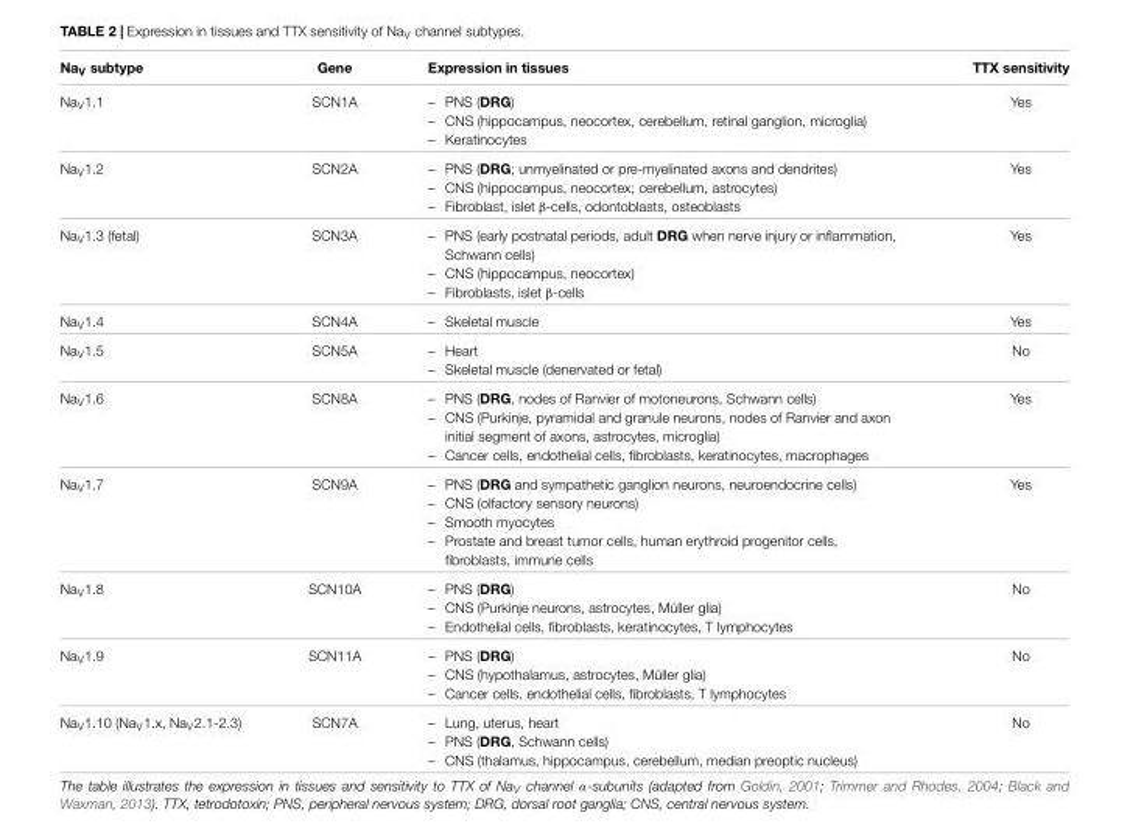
<table><thead><tr><td>Na<sub>V</sub> subtype</td><td>Gene</td><td>Expression in tissues</td><td>TTX sensitivity</td></tr></thead><tbody><tr><td>Na<sub>V</sub>1.1</td><td>SCN1A</td><td>– PNS (DRG) – CNS (hippocampus, neocortex, cerebellum, retinal ganglion, microglia) – Keratinocytes</td><td>Yes</td></tr><tr><td>Na<sub>V</sub>1.2</td><td>SCN2A</td><td>– PNS (DRG; unmyelinated or pre-myelinated axons and dendrites) – CNS (hippocampus, neocortex; cerebellum, astrocytes) – Fibroblast, islet β-cells, odontoblasts, osteoblasts</td><td>Yes</td></tr><tr><td>Na<sub>V</sub>1.3 (fetal)</td><td>SCN3A</td><td>– PNS (early postnatal periods, adult DRG when nerve injury or inflammation, Schwann cells) – CNS (hippocampus, neocortex) – Fibroblasts, islet β-cells</td><td>Yes</td></tr><tr><td>Na<sub>V</sub>1.4</td><td>SCN4A</td><td>– Skeletal muscle</td><td>Yes</td></tr><tr><td>Na<sub>V</sub>1.5</td><td>SCN5A</td><td>– Heart – Skeletal muscle (denervated or fetal)</td><td>No</td></tr><tr><td>Na<sub>V</sub>1.6</td><td>SCN8A</td><td>– PNS (DRG, nodes of Ranvier of motoneurons, Schwann cells) – CNS (Purkinje, pyramidal and granule neurons, nodes of Ranvier and axon initial segment of axons, astrocytes, microglia) – Cancer cells, endothelial cells, fibroblasts, keratinocytes, macrophages</td><td>Yes</td></tr><tr><td>Na<sub>V</sub>1.7</td><td>SCN9A</td><td>– PNS (DRG and sympathetic ganglion neurons, neuroendocrine cells) – CNS (olfactory sensory neurons) – Smooth myocytes – Prostate and breast tumor cells, human erythroid progenitor cells, fibroblasts, immune cells</td><td>Yes</td></tr><tr><td>Na<sub>V</sub>1.8</td><td>SCN10A</td><td>– PNS (DRG) – CNS (Purkinje neurons, astrocytes, Müller glia) – Endothelial cells, fibroblasts, keratinocytes, T lymphocytes</td><td>No</td></tr><tr><td>Na<sub>V</sub>1.9</td><td>SCN11A</td><td>– PNS (DRG) – CNS (hypothalamus, astrocytes, Müller glia) – Cancer cells, endothelial cells, fibroblasts, T lymphocytes</td><td>No</td></tr><tr><td>Na<sub>V</sub>1.10 (Na<sub>V</sub>1.x, Na<sub>V</sub>2.1-2.3)</td><td>SCN7A</td><td>– Lung, uterus, heart – PNS (DRG, Schwann cells) – CNS (thalamus, hippocampus, cerebellum, median preoptic nucleus)</td><td>No</td></tr></tbody></table>